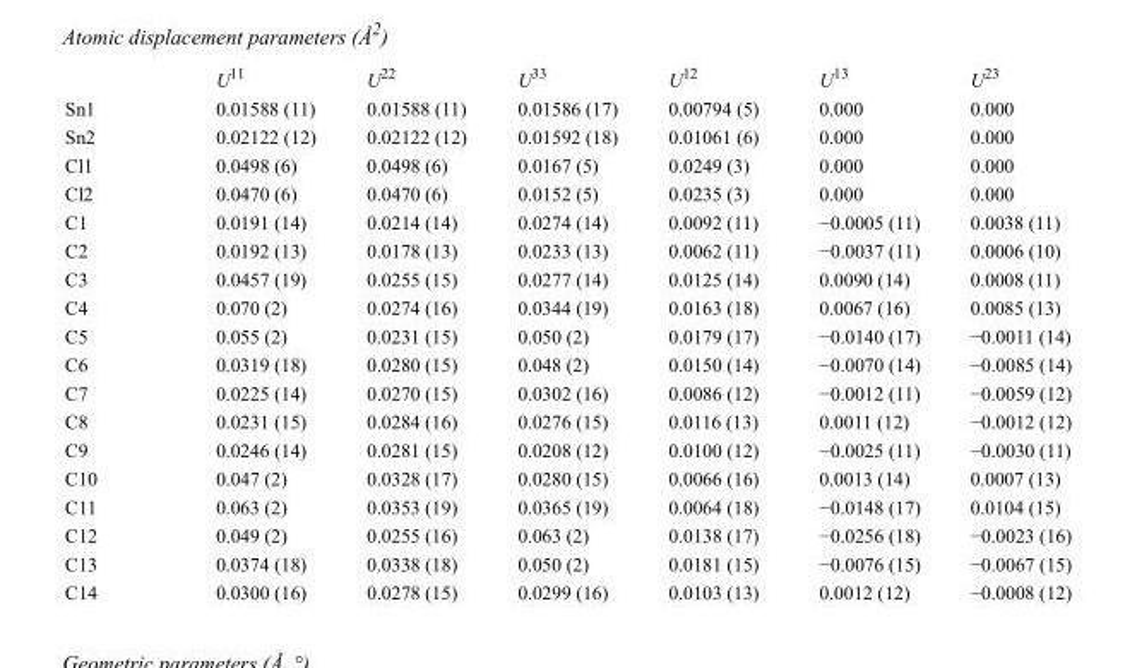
<table><thead><tr><td></td><td>U<sup>11</sup></td><td>U<sup>22</sup></td><td>U<sup>33</sup></td><td>U<sup>12</sup></td><td>U<sup>13</sup></td><td>U<sup>23</sup></td></tr></thead><tbody><tr><td>Sn1</td><td>0.01588 (11)</td><td>0.01588 (11)</td><td>0.01586 (17)</td><td>0.00794 (5)</td><td>0.000</td><td>0.000</td></tr><tr><td>Sn2</td><td>0.02122 (12)</td><td>0.02122 (12)</td><td>0.01592 (18)</td><td>0.01061 (6)</td><td>0.000</td><td>0.000</td></tr><tr><td>Cl1</td><td>0.0498 (6)</td><td>0.0498 (6)</td><td>0.0167 (5)</td><td>0.0249 (3)</td><td>0.000</td><td>0.000</td></tr><tr><td>Cl2</td><td>0.0470 (6)</td><td>0.0470 (6)</td><td>0.0152 (5)</td><td>0.0235 (3)</td><td>0.000</td><td>0.000</td></tr><tr><td>C1</td><td>0.0191 (14)</td><td>0.0214 (14)</td><td>0.0274 (14)</td><td>0.0092 (11)</td><td>−0.0005 (11)</td><td>0.0038 (11)</td></tr><tr><td>C2</td><td>0.0192 (13)</td><td>0.0178 (13)</td><td>0.0233 (13)</td><td>0.0062 (11)</td><td>−0.0037 (11)</td><td>0.0006 (10)</td></tr><tr><td>C3</td><td>0.0457 (19)</td><td>0.0255 (15)</td><td>0.0277 (14)</td><td>0.0125 (14)</td><td>0.0090 (14)</td><td>0.0008 (11)</td></tr><tr><td>C4</td><td>0.070 (2)</td><td>0.0274 (16)</td><td>0.0344 (19)</td><td>0.0163 (18)</td><td>0.0067 (16)</td><td>0.0085 (13)</td></tr><tr><td>C5</td><td>0.055 (2)</td><td>0.0231 (15)</td><td>0.050 (2)</td><td>0.0179 (17)</td><td>−0.0140 (17)</td><td>−0.0011 (14)</td></tr><tr><td>C6</td><td>0.0319 (18)</td><td>0.0280 (15)</td><td>0.048 (2)</td><td>0.0150 (14)</td><td>−0.0070 (14)</td><td>−0.0085 (14)</td></tr><tr><td>C7</td><td>0.0225 (14)</td><td>0.0270 (15)</td><td>0.0302 (16)</td><td>0.0086 (12)</td><td>−0.0012 (11)</td><td>−0.0059 (12)</td></tr><tr><td>C8</td><td>0.0231 (15)</td><td>0.0284 (16)</td><td>0.0276 (15)</td><td>0.0116 (13)</td><td>0.0011 (12)</td><td>−0.0012 (12)</td></tr><tr><td>C9</td><td>0.0246 (14)</td><td>0.0281 (15)</td><td>0.0208 (12)</td><td>0.0100 (12)</td><td>−0.0025 (11)</td><td>−0.0030 (11)</td></tr><tr><td>C10</td><td>0.047 (2)</td><td>0.0328 (17)</td><td>0.0280 (15)</td><td>0.0066 (16)</td><td>0.0013 (14)</td><td>0.0007 (13)</td></tr><tr><td>C11</td><td>0.063 (2)</td><td>0.0353 (19)</td><td>0.0365 (19)</td><td>0.0064 (18)</td><td>−0.0148 (17)</td><td>0.0104 (15)</td></tr><tr><td>C12</td><td>0.049 (2)</td><td>0.0255 (16)</td><td>0.063 (2)</td><td>0.0138 (17)</td><td>−0.0256 (18)</td><td>−0.0023 (16)</td></tr><tr><td>C13</td><td>0.0374 (18)</td><td>0.0338 (18)</td><td>0.050 (2)</td><td>0.0181 (15)</td><td>−0.0076 (15)</td><td>−0.0067 (15)</td></tr><tr><td>C14</td><td>0.0300 (16)</td><td>0.0278 (15)</td><td>0.0299 (16)</td><td>0.0103 (13)</td><td>0.0012 (12)</td><td>−0.0008 (12)</td></tr></tbody></table>